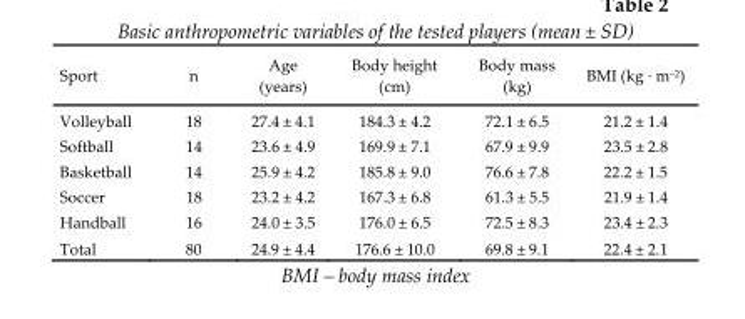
<table><thead><tr><td>Sport</td><td>n</td><td>Age (years)</td><td>Body height (cm)</td><td>Body mass (kg)</td><td>BMI (kg · m<sup>–2</sup>)</td></tr></thead><tbody><tr><td>Volleyball</td><td>18</td><td>27.4 ± 4.1</td><td>184.3 ± 4.2</td><td>72.1 ± 6.5</td><td>21.2 ± 1.4</td></tr><tr><td>Softball</td><td>14</td><td>23.6 ± 4.9</td><td>169.9 ± 7.1</td><td>67.9 ± 9.9</td><td>23.5 ± 2.8</td></tr><tr><td>Basketball</td><td>14</td><td>25.9 ± 4.2</td><td>185.8 ± 9.0</td><td>76.6 ± 7.8</td><td>22.2 ± 1.5</td></tr><tr><td>Soccer</td><td>18</td><td>23.2 ± 4.2</td><td>167.3 ± 6.8</td><td>61.3 ± 5.5</td><td>21.9 ± 1.4</td></tr><tr><td>Handball</td><td>16</td><td>24.0 ± 3.5</td><td>176.0 ± 6.5</td><td>72.5 ± 8.3</td><td>23.4 ± 2.3</td></tr><tr><td>Total</td><td>80</td><td>24.9 ± 4.4</td><td>176.6 ± 10.0</td><td>69.8 ± 9.1</td><td>22.4 ± 2.1</td></tr></tbody></table>